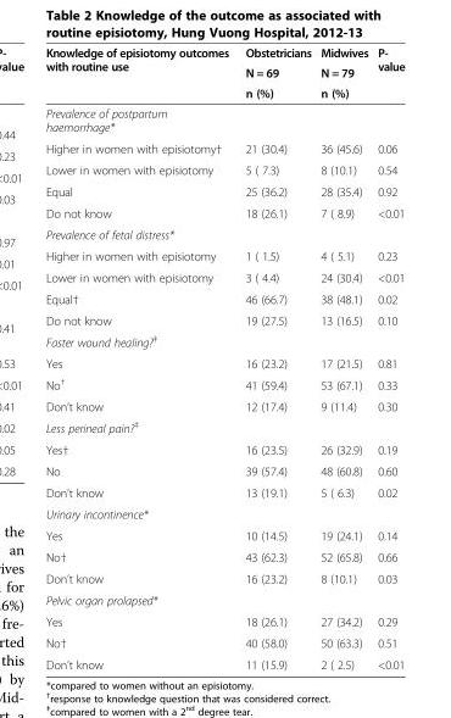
<table><thead><tr><td rowspan="3">Knowledge of episiotomy outcomes with routine use</td><td rowspan="3">Obstetricians N = 69 n (%)</td><td rowspan="3">Midwives N = 79 n (%)</td><td rowspan="3">P- value</td></tr><tr></tr><tr></tr></thead><tbody><tr><td colspan="4">Prevalence of postpartum haemorrhage*</td></tr><tr><td>Higher in women with episiotomy†</td><td>21 (30.4)</td><td>36 (45.6)</td><td>0.06</td></tr><tr><td>Lower in women with episiotomy</td><td>5 ( 7.3)</td><td>8 (10.1)</td><td>0.54</td></tr><tr><td>Equal</td><td>25 (36.2)</td><td>28 (35.4)</td><td>0.92</td></tr><tr><td>Do not know</td><td>18 (26.1)</td><td>7 ( 8.9)</td><td>&lt;0.01</td></tr><tr><td colspan="4">Prevalence of fetal distress*</td></tr><tr><td>Higher in women with episiotomy</td><td>1 ( 1.5)</td><td>4 ( 5.1)</td><td>0.23</td></tr><tr><td>Lower in women with episiotomy</td><td>3 ( 4.4)</td><td>24 (30.4)</td><td>&lt;0.01</td></tr><tr><td>Equal†</td><td>46 (66.7)</td><td>38 (48.1)</td><td>0.02</td></tr><tr><td>Do not know</td><td>19 (27.5)</td><td>13 (16.5)</td><td>0.10</td></tr><tr><td colspan="4">Faster wound healing?<sup>‡</sup></td></tr><tr><td>Yes</td><td>16 (23.2)</td><td>17 (21.5)</td><td>0.81</td></tr><tr><td>No<sup>†</sup></td><td>41 (59.4)</td><td>53 (67.1)</td><td>0.33</td></tr><tr><td>Don’t know</td><td>12 (17.4)</td><td>9 (11.4)</td><td>0.30</td></tr><tr><td colspan="4">Less perineal pain?<sup>‡</sup></td></tr><tr><td>Yes†</td><td>16 (23.5)</td><td>26 (32.9)</td><td>0.19</td></tr><tr><td>No</td><td>39 (57.4)</td><td>48 (60.8)</td><td>0.60</td></tr><tr><td>Don’t know</td><td>13 (19.1)</td><td>5 ( 6.3)</td><td>0.02</td></tr><tr><td colspan="4">Urinary incontinence*</td></tr><tr><td>Yes</td><td>10 (14.5)</td><td>19 (24.1)</td><td>0.14</td></tr><tr><td>No†</td><td>43 (62.3)</td><td>52 (65.8)</td><td>0.66</td></tr><tr><td>Don’t know</td><td>16 (23.2)</td><td>8 (10.1)</td><td>0.03</td></tr><tr><td colspan="4">Pelvic organ prolapsed*</td></tr><tr><td>Yes</td><td>18 (26.1)</td><td>27 (34.2)</td><td>0.29</td></tr><tr><td>No†</td><td>40 (58.0)</td><td>50 (63.3)</td><td>0.51</td></tr><tr><td>Don’t know</td><td>11 (15.9)</td><td>2 ( 2.5)</td><td>&lt;0.01</td></tr></tbody></table>